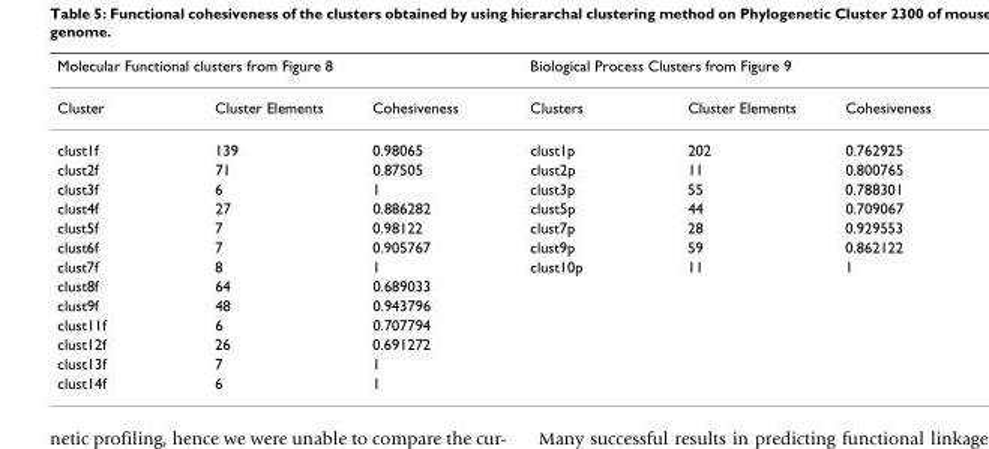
<table><thead><tr><td colspan="3">Molecular Functional clusters from Figure 8</td><td colspan="3">Biological Process Clusters from Figure 9</td></tr><tr><td>Cluster</td><td>Cluster Elements</td><td>Cohesiveness</td><td>Clusters</td><td>Cluster Elements</td><td>Cohesiveness</td></tr></thead><tbody><tr><td>clust1f</td><td>139</td><td>0.98065</td><td>clust1p</td><td>202</td><td>0.762925</td></tr><tr><td>clust2f</td><td>71</td><td>0.87505</td><td>clust2p</td><td>11</td><td>0.800765</td></tr><tr><td>clust3f</td><td>6</td><td>1</td><td>clust3p</td><td>55</td><td>0.788301</td></tr><tr><td>clust4f</td><td>27</td><td>0.886282</td><td>clust5p</td><td>44</td><td>0.709067</td></tr><tr><td>clust5f</td><td>7</td><td>0.98122</td><td>clust7p</td><td>28</td><td>0.929553</td></tr><tr><td>clust6f</td><td>7</td><td>0.905767</td><td>clust9p</td><td>59</td><td>0.862122</td></tr><tr><td>clust7f</td><td>8</td><td>1</td><td>clust10p</td><td>11</td><td>1</td></tr><tr><td>clust8f</td><td>64</td><td>0.689033</td><td></td><td></td><td></td></tr><tr><td>clust9f</td><td>48</td><td>0.943796</td><td></td><td></td><td></td></tr><tr><td>clust11f</td><td>6</td><td>0.707794</td><td></td><td></td><td></td></tr><tr><td>clust12f</td><td>26</td><td>0.691272</td><td></td><td></td><td></td></tr><tr><td>clust13f</td><td>7</td><td>1</td><td></td><td></td><td></td></tr><tr><td>clust14f</td><td>6</td><td>1</td><td></td><td></td><td></td></tr></tbody></table>